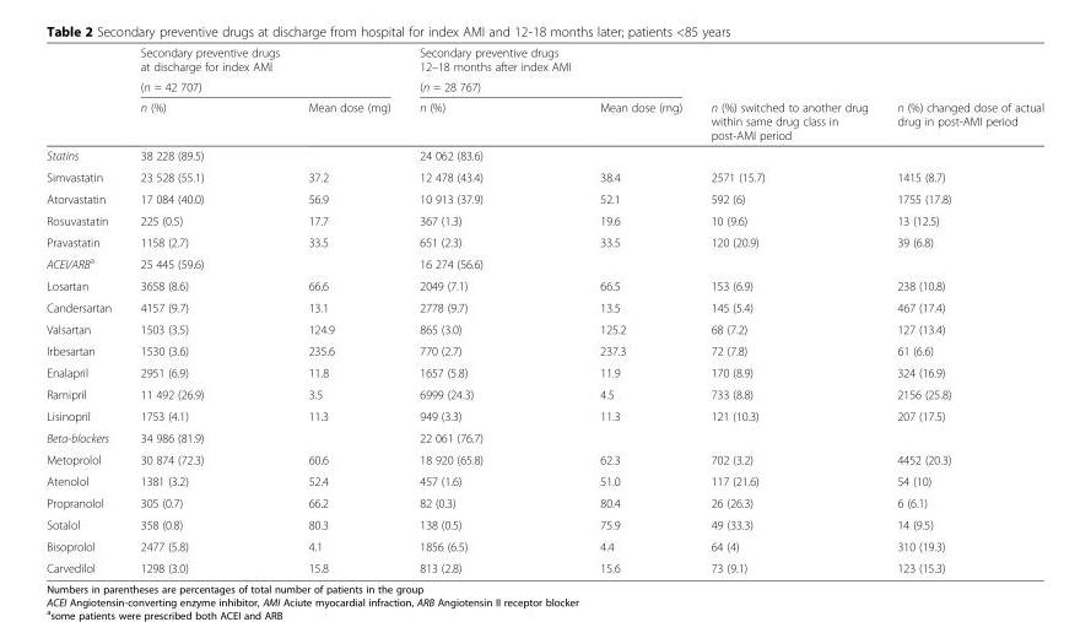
<table><thead><tr><td rowspan="3"></td><td>Secondary preventive drugs at discharge for index AMI</td><td></td><td>Secondary preventive drugs 12–18 months after index AMI</td><td></td><td rowspan="3">n (%) switched to another drug within same drug class in post-AMI period</td><td rowspan="3">n (%) changed dose of actual drug in post-AMI period</td></tr><tr><td colspan="2">(n = 42 707)</td><td colspan="2">(n = 28 767)</td></tr><tr><td>n (%)</td><td>Mean dose (mg)</td><td>n (%)</td><td>Mean dose (mg)</td></tr></thead><tbody><tr><td>Statins</td><td>38 228 (89.5)</td><td></td><td>24 062 (83.6)</td><td></td><td></td><td></td></tr><tr><td>Simvastatin</td><td>23 528 (55.1)</td><td>37.2</td><td>12 478 (43.4)</td><td>38.4</td><td>2571 (15.7)</td><td>1415 (8.7)</td></tr><tr><td>Atorvastatin</td><td>17 084 (40.0)</td><td>56.9</td><td>10 913 (37.9)</td><td>52.1</td><td>592 (6)</td><td>1755 (17.8)</td></tr><tr><td>Rosuvastatin</td><td>225 (0.5)</td><td>17.7</td><td>367 (1.3)</td><td>19.6</td><td>10 (9.6)</td><td>13 (12.5)</td></tr><tr><td>Pravastatin</td><td>1158 (2.7)</td><td>33.5</td><td>651 (2.3)</td><td>33.5</td><td>120 (20.9)</td><td>39 (6.8)</td></tr><tr><td>ACEI/ARB<sup>a</sup></td><td>25 445 (59.6)</td><td></td><td>16 274 (56.6)</td><td></td><td></td><td></td></tr><tr><td>Losartan</td><td>3658 (8.6)</td><td>66.6</td><td>2049 (7.1)</td><td>66.5</td><td>153 (6.9)</td><td>238 (10.8)</td></tr><tr><td>Candersartan</td><td>4157 (9.7)</td><td>13.1</td><td>2778 (9.7)</td><td>13.5</td><td>145 (5.4)</td><td>467 (17.4)</td></tr><tr><td>Valsartan</td><td>1503 (3.5)</td><td>124.9</td><td>865 (3.0)</td><td>125.2</td><td>68 (7.2)</td><td>127 (13.4)</td></tr><tr><td>Irbesartan</td><td>1530 (3.6)</td><td>235.6</td><td>770 (2.7)</td><td>237.3</td><td>72 (7.8)</td><td>61 (6.6)</td></tr><tr><td>Enalapril</td><td>2951 (6.9)</td><td>11.8</td><td>1657 (5.8)</td><td>11.9</td><td>170 (8.9)</td><td>324 (16.9)</td></tr><tr><td>Ramipril</td><td>11 492 (26.9)</td><td>3.5</td><td>6999 (24.3)</td><td>4.5</td><td>733 (8.8)</td><td>2156 (25.8)</td></tr><tr><td>Lisinopril</td><td>1753 (4.1)</td><td>11.3</td><td>949 (3.3)</td><td>11.3</td><td>121 (10.3)</td><td>207 (17.5)</td></tr><tr><td>Beta-blockers</td><td>34 986 (81.9)</td><td></td><td>22 061 (76.7)</td><td></td><td></td><td></td></tr><tr><td>Metoprolol</td><td>30 874 (72.3)</td><td>60.6</td><td>18 920 (65.8)</td><td>62.3</td><td>702 (3.2)</td><td>4452 (20.3)</td></tr><tr><td>Atenolol</td><td>1381 (3.2)</td><td>52.4</td><td>457 (1.6)</td><td>51.0</td><td>117 (21.6)</td><td>54 (10)</td></tr><tr><td>Propranolol</td><td>305 (0.7)</td><td>66.2</td><td>82 (0.3)</td><td>80.4</td><td>26 (26.3)</td><td>6 (6.1)</td></tr><tr><td>Sotalol</td><td>358 (0.8)</td><td>80.3</td><td>138 (0.5)</td><td>75.9</td><td>49 (33.3)</td><td>14 (9.5)</td></tr><tr><td>Bisoprolol</td><td>2477 (5.8)</td><td>4.1</td><td>1856 (6.5)</td><td>4.4</td><td>64 (4)</td><td>310 (19.3)</td></tr><tr><td>Carvedilol</td><td>1298 (3.0)</td><td>15.8</td><td>813 (2.8)</td><td>15.6</td><td>73 (9.1)</td><td>123 (15.3)</td></tr></tbody></table>